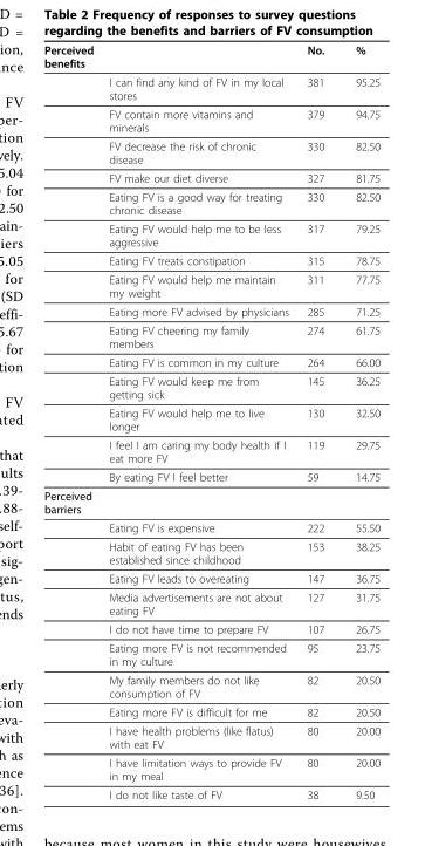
<table><thead><tr><td>Perceived benefits</td><td></td><td>No.</td><td>%</td></tr></thead><tbody><tr><td></td><td>I can find any kind of FV in my local stores</td><td>381</td><td>95.25</td></tr><tr><td></td><td>FV contain more vitamins and minerals</td><td>379</td><td>94.75</td></tr><tr><td></td><td>FV decrease the risk of chronic disease</td><td>330</td><td>82.50</td></tr><tr><td></td><td>FV make our diet diverse</td><td>327</td><td>81.75</td></tr><tr><td></td><td>Eating FV is a good way for treating chronic disease</td><td>330</td><td>82.50</td></tr><tr><td></td><td>Eating FV would help me to be less aggressive</td><td>317</td><td>79.25</td></tr><tr><td></td><td>Eating FV treats constipation</td><td>315</td><td>78.75</td></tr><tr><td></td><td>Eating FV would help me maintain my weight</td><td>311</td><td>77.75</td></tr><tr><td></td><td>Eating more FV advised by physicians</td><td>285</td><td>71.25</td></tr><tr><td></td><td>Eating FV cheering my family members</td><td>274</td><td>61.75</td></tr><tr><td></td><td>Eating FV is common in my culture</td><td>264</td><td>66.00</td></tr><tr><td></td><td>Eating FV would keep me from getting sick</td><td>145</td><td>36.25</td></tr><tr><td></td><td>Eating FV would help me to live longer</td><td>130</td><td>32.50</td></tr><tr><td></td><td>I feel I am caring my body health if I eat more FV</td><td>119</td><td>29.75</td></tr><tr><td></td><td>By eating FV I feel better</td><td>59</td><td>14.75</td></tr><tr><td colspan="4">Perceived barriers</td></tr><tr><td></td><td>Eating FV is expensive</td><td>222</td><td>55.50</td></tr><tr><td></td><td>Habit of eating FV has been established since childhood</td><td>153</td><td>38.25</td></tr><tr><td></td><td>Eating FV leads to overeating</td><td>147</td><td>36.75</td></tr><tr><td></td><td>Media advertisements are not about eating FV</td><td>127</td><td>31.75</td></tr><tr><td></td><td>I do not have time to prepare FV</td><td>107</td><td>26.75</td></tr><tr><td></td><td>Eating more FV is not recommended in my culture</td><td>95</td><td>23.75</td></tr><tr><td></td><td>My family members do not like consumption of FV</td><td>82</td><td>20.50</td></tr><tr><td></td><td>Eating more FV is difficult for me</td><td>82</td><td>20.50</td></tr><tr><td></td><td>I have health problems (like flatus) with eat FV</td><td>80</td><td>20.00</td></tr><tr><td></td><td>I have limitation ways to provide FV in my meal</td><td>80</td><td>20.00</td></tr><tr><td></td><td>I do not like taste of FV</td><td>38</td><td>9.50</td></tr></tbody></table>